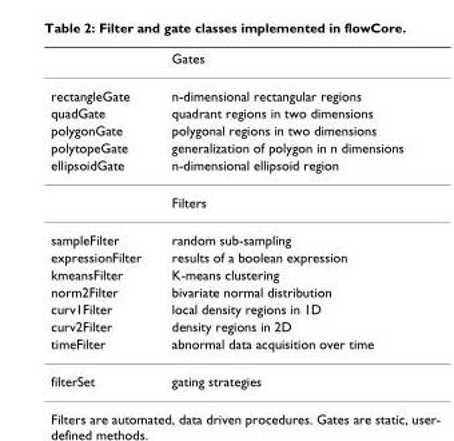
<table><thead><tr><td></td><td>Gates</td></tr></thead><tbody><tr><td>rectangleGate</td><td>n-dimensional rectangular regions</td></tr><tr><td>quadGate</td><td>quadrant regions in two dimensions</td></tr><tr><td>polygonGate</td><td>polygonal regions in two dimensions</td></tr><tr><td>polytopeGate</td><td>generalization of polygon in n dimensions</td></tr><tr><td rowspan="2">ellipsoidGate</td><td>n-dimensional ellipsoid region</td></tr><tr><td>Filters</td></tr><tr><td>sampleFilter</td><td>random sub-sampling</td></tr><tr><td>expressionFilter</td><td>results of a boolean expression</td></tr><tr><td>kmeansFilter</td><td>K-means clustering</td></tr><tr><td>norm2Filter</td><td>bivariate normal distribution</td></tr><tr><td>curv1Filter</td><td>local density regions in 1D</td></tr><tr><td>curv2Filter</td><td>density regions in 2D</td></tr><tr><td>timeFilter</td><td>abnormal data acquisition over time</td></tr><tr><td>filterSet</td><td>gating strategies</td></tr></tbody></table>